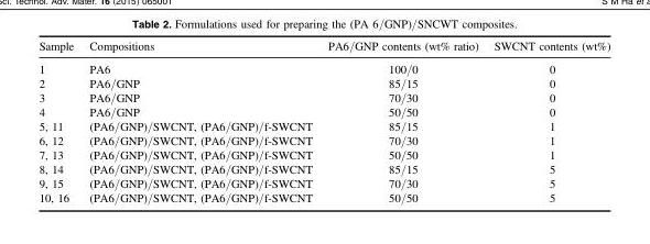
<table><thead><tr><td>Sample</td><td>Compositions</td><td>PA6/GNP contents (wt% ratio)</td><td>SWCNT contents (wt%)</td></tr></thead><tbody><tr><td>1</td><td>PA6</td><td>100/0</td><td>0</td></tr><tr><td>2</td><td>PA6/GNP</td><td>85/15</td><td>0</td></tr><tr><td>3</td><td>PA6/GNP</td><td>70/30</td><td>0</td></tr><tr><td>4</td><td>PA6/GNP</td><td>50/50</td><td>0</td></tr><tr><td>5, 11</td><td>(PA6/GNP)/SWCNT, (PA6/GNP)/f-SWCNT</td><td>85/15</td><td>1</td></tr><tr><td>6, 12</td><td>(PA6/GNP)/SWCNT, (PA6/GNP)/f-SWCNT</td><td>70/30</td><td>1</td></tr><tr><td>7, 13</td><td>(PA6/GNP)/SWCNT, (PA6/GNP)/f-SWCNT</td><td>50/50</td><td>1</td></tr><tr><td>8, 14</td><td>(PA6/GNP)/SWCNT, (PA6/GNP)/f-SWCNT</td><td>85/15</td><td>5</td></tr><tr><td>9, 15</td><td>(PA6/GNP)/SWCNT, (PA6/GNP)/f-SWCNT</td><td>70/30</td><td>5</td></tr><tr><td>10, 16</td><td>(PA6/GNP)/SWCNT, (PA6/GNP)/f-SWCNT</td><td>50/50</td><td>5</td></tr></tbody></table>